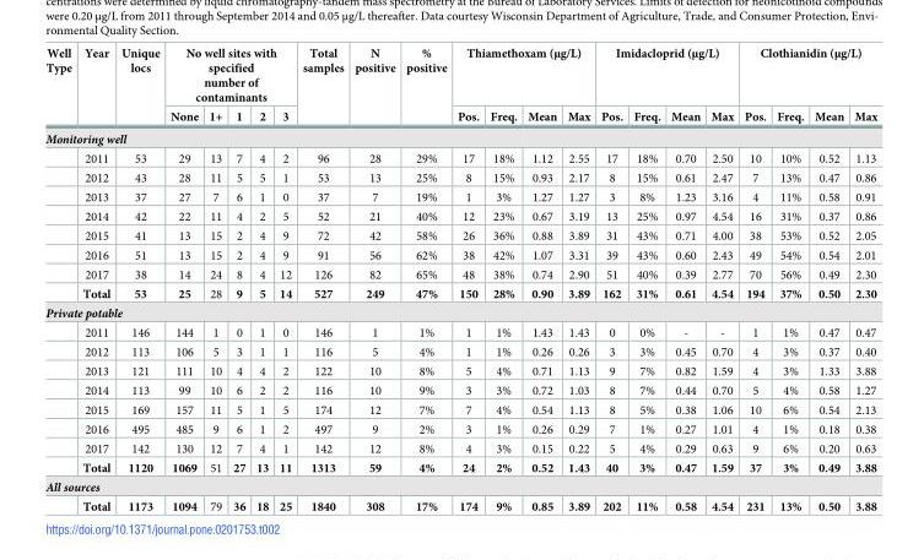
<table><thead><tr><td rowspan="2">Well Type</td><td rowspan="2">Year</td><td rowspan="2">Unique locs</td><td colspan="5">No well sites with specified number of contaminants</td><td rowspan="2">Total samples</td><td rowspan="2">N positive</td><td rowspan="2">% positive</td><td colspan="4">Thiamethoxam (μg/L)</td><td colspan="4">Imidacloprid (μg/L)</td><td colspan="4">Clothianidin (μg/L)</td></tr><tr><td>None</td><td>1+</td><td>1</td><td>2</td><td>3</td><td>Pos.</td><td>Freq.</td><td>Mean</td><td>Max</td><td>Pos.</td><td>Freq.</td><td>Mean</td><td>Max</td><td>Pos.</td><td>Freq.</td><td>Mean</td><td>Max</td></tr></thead><tbody><tr><td colspan="23">Monitoring well</td></tr><tr><td></td><td>2011</td><td>53</td><td>29</td><td>13</td><td>7</td><td>4</td><td>2</td><td>96</td><td>28</td><td>29%</td><td>17</td><td>18%</td><td>1.12</td><td>2.55</td><td>17</td><td>18%</td><td>0.70</td><td>2.50</td><td>10</td><td>10%</td><td>0.52</td><td>1.13</td></tr><tr><td></td><td>2012</td><td>43</td><td>28</td><td>11</td><td>5</td><td>5</td><td>1</td><td>53</td><td>13</td><td>25%</td><td>8</td><td>15%</td><td>0.93</td><td>2.17</td><td>8</td><td>15%</td><td>0.61</td><td>2.47</td><td>7</td><td>13%</td><td>0.47</td><td>0.86</td></tr><tr><td></td><td>2013</td><td>37</td><td>27</td><td>7</td><td>6</td><td>1</td><td>0</td><td>37</td><td>7</td><td>19%</td><td>1</td><td>3%</td><td>1.27</td><td>1.27</td><td>3</td><td>8%</td><td>1.23</td><td>3.16</td><td>4</td><td>11%</td><td>0.58</td><td>0.91</td></tr><tr><td></td><td>2014</td><td>42</td><td>22</td><td>11</td><td>4</td><td>2</td><td>5</td><td>52</td><td>21</td><td>40%</td><td>12</td><td>23%</td><td>0.67</td><td>3.19</td><td>13</td><td>25%</td><td>0.97</td><td>4.54</td><td>16</td><td>31%</td><td>0.37</td><td>0.86</td></tr><tr><td></td><td>2015</td><td>41</td><td>13</td><td>15</td><td>2</td><td>4</td><td>9</td><td>72</td><td>42</td><td>58%</td><td>26</td><td>36%</td><td>0.88</td><td>3.89</td><td>31</td><td>43%</td><td>0.71</td><td>4.00</td><td>38</td><td>53%</td><td>0.52</td><td>2.05</td></tr><tr><td></td><td>2016</td><td>51</td><td>13</td><td>15</td><td>2</td><td>4</td><td>9</td><td>91</td><td>56</td><td>62%</td><td>38</td><td>42%</td><td>1.07</td><td>3.31</td><td>39</td><td>43%</td><td>0.60</td><td>2.43</td><td>49</td><td>54%</td><td>0.54</td><td>2.01</td></tr><tr><td></td><td>2017</td><td>38</td><td>14</td><td>24</td><td>8</td><td>4</td><td>12</td><td>126</td><td>82</td><td>65%</td><td>48</td><td>38%</td><td>0.74</td><td>2.90</td><td>51</td><td>40%</td><td>0.39</td><td>2.77</td><td>70</td><td>56%</td><td>0.49</td><td>2.30</td></tr><tr><td></td><td>Total</td><td>53</td><td>25</td><td>28</td><td>9</td><td>5</td><td>14</td><td>527</td><td>249</td><td>47%</td><td>150</td><td>28%</td><td>0.90</td><td>3.89</td><td>162</td><td>31%</td><td>0.61</td><td>4.54</td><td>194</td><td>37%</td><td>0.50</td><td>2.30</td></tr><tr><td colspan="23">Private potable</td></tr><tr><td></td><td>2011</td><td>146</td><td>144</td><td>1</td><td>0</td><td>1</td><td>0</td><td>146</td><td>1</td><td>1%</td><td>1</td><td>1%</td><td>1.43</td><td>1.43</td><td>0</td><td>0%</td><td>-</td><td>-</td><td>1</td><td>1%</td><td>0.47</td><td>0.47</td></tr><tr><td></td><td>2012</td><td>113</td><td>106</td><td>5</td><td>3</td><td>1</td><td>1</td><td>116</td><td>5</td><td>4%</td><td>1</td><td>1%</td><td>0.26</td><td>0.26</td><td>3</td><td>3%</td><td>0.45</td><td>0.70</td><td>4</td><td>3%</td><td>0.37</td><td>0.40</td></tr><tr><td></td><td>2013</td><td>121</td><td>111</td><td>10</td><td>4</td><td>4</td><td>2</td><td>122</td><td>10</td><td>8%</td><td>5</td><td>4%</td><td>0.71</td><td>1.13</td><td>9</td><td>7%</td><td>0.82</td><td>1.59</td><td>4</td><td>3%</td><td>1.33</td><td>3.88</td></tr><tr><td></td><td>2014</td><td>113</td><td>99</td><td>10</td><td>6</td><td>2</td><td>2</td><td>116</td><td>10</td><td>9%</td><td>3</td><td>3%</td><td>0.72</td><td>1.03</td><td>8</td><td>7%</td><td>0.44</td><td>0.70</td><td>5</td><td>4%</td><td>0.58</td><td>1.27</td></tr><tr><td></td><td>2015</td><td>169</td><td>157</td><td>11</td><td>5</td><td>1</td><td>5</td><td>174</td><td>12</td><td>7%</td><td>7</td><td>4%</td><td>0.54</td><td>1.13</td><td>8</td><td>5%</td><td>0.38</td><td>1.06</td><td>10</td><td>6%</td><td>0.54</td><td>2.13</td></tr><tr><td></td><td>2016</td><td>495</td><td>485</td><td>9</td><td>6</td><td>1</td><td>2</td><td>497</td><td>9</td><td>2%</td><td>3</td><td>1%</td><td>0.26</td><td>0.29</td><td>7</td><td>1%</td><td>0.27</td><td>1.01</td><td>4</td><td>1%</td><td>0.18</td><td>0.38</td></tr><tr><td></td><td>2017</td><td>142</td><td>130</td><td>12</td><td>7</td><td>4</td><td>1</td><td>142</td><td>12</td><td>8%</td><td>4</td><td>3%</td><td>0.15</td><td>0.22</td><td>5</td><td>4%</td><td>0.29</td><td>0.63</td><td>9</td><td>6%</td><td>0.20</td><td>0.63</td></tr><tr><td></td><td>Total</td><td>1120</td><td>1069</td><td>51</td><td>27</td><td>13</td><td>11</td><td>1313</td><td>59</td><td>4%</td><td>24</td><td>2%</td><td>0.52</td><td>1.43</td><td>40</td><td>3%</td><td>0.47</td><td>1.59</td><td>37</td><td>3%</td><td>0.49</td><td>3.88</td></tr><tr><td colspan="23">All sources</td></tr><tr><td></td><td>Total</td><td>1173</td><td>1094</td><td>79</td><td>36</td><td>18</td><td>25</td><td>1840</td><td>308</td><td>17%</td><td>174</td><td>9%</td><td>0.85</td><td>3.89</td><td>202</td><td>11%</td><td>0.58</td><td>4.54</td><td>231</td><td>13%</td><td>0.50</td><td>3.88</td></tr></tbody></table>